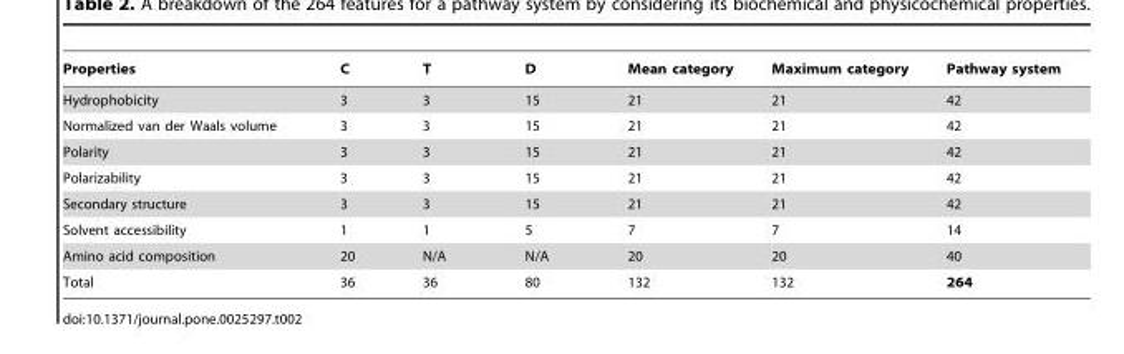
<table><thead><tr><td>Properties</td><td>C</td><td>T</td><td>D</td><td>Mean category</td><td>Maximum category</td><td>Pathway system</td></tr></thead><tbody><tr><td>Hydrophobicity</td><td>3</td><td>3</td><td>15</td><td>21</td><td>21</td><td>42</td></tr><tr><td>Normalized van der Waals volume</td><td>3</td><td>3</td><td>15</td><td>21</td><td>21</td><td>42</td></tr><tr><td>Polarity</td><td>3</td><td>3</td><td>15</td><td>21</td><td>21</td><td>42</td></tr><tr><td>Polarizability</td><td>3</td><td>3</td><td>15</td><td>21</td><td>21</td><td>42</td></tr><tr><td>Secondary structure</td><td>3</td><td>3</td><td>15</td><td>21</td><td>21</td><td>42</td></tr><tr><td>Solvent accessibility</td><td>1</td><td>1</td><td>5</td><td>7</td><td>7</td><td>14</td></tr><tr><td>Amino acid composition</td><td>20</td><td>N/A</td><td>N/A</td><td>20</td><td>20</td><td>40</td></tr><tr><td>Total</td><td>36</td><td>36</td><td>80</td><td>132</td><td>132</td><td>264</td></tr></tbody></table>